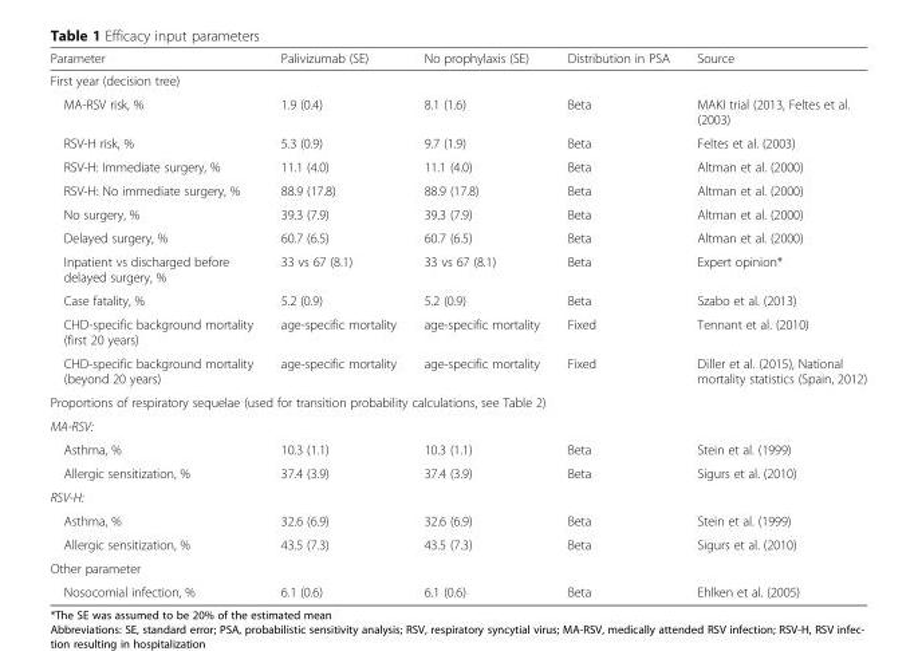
<table><thead><tr><td>Parameter</td><td>Palivizumab (SE)</td><td>No prophylaxis (SE)</td><td>Distribution in PSA</td><td>Source</td></tr></thead><tbody><tr><td colspan="5">First year (decision tree)</td></tr><tr><td>MA-RSV risk, %</td><td>1.9 (0.4)</td><td>8.1 (1.6)</td><td>Beta</td><td>MAKI trial (2013, Feltes et al. (2003)</td></tr><tr><td>RSV-H risk, %</td><td>5.3 (0.9)</td><td>9.7 (1.9)</td><td>Beta</td><td>Feltes et al. (2003)</td></tr><tr><td>RSV-H: Immediate surgery, %</td><td>11.1 (4.0)</td><td>11.1 (4.0)</td><td>Beta</td><td>Altman et al. (2000)</td></tr><tr><td>RSV-H: No immediate surgery, %</td><td>88.9 (17.8)</td><td>88.9 (17.8)</td><td>Beta</td><td>Altman et al. (2000)</td></tr><tr><td>No surgery, %</td><td>39.3 (7.9)</td><td>39.3 (7.9)</td><td>Beta</td><td>Altman et al. (2000)</td></tr><tr><td>Delayed surgery, %</td><td>60.7 (6.5)</td><td>60.7 (6.5)</td><td>Beta</td><td>Altman et al. (2000)</td></tr><tr><td>Inpatient vs discharged before delayed surgery, %</td><td>33 vs 67 (8.1)</td><td>33 vs 67 (8.1)</td><td>Beta</td><td>Expert opinion*</td></tr><tr><td>Case fatality, %</td><td>5.2 (0.9)</td><td>5.2 (0.9)</td><td>Beta</td><td>Szabo et al. (2013)</td></tr><tr><td>CHD-specific background mortality (first 20 years)</td><td>age-specific mortality</td><td>age-specific mortality</td><td>Fixed</td><td>Tennant et al. (2010)</td></tr><tr><td>CHD-specific background mortality (beyond 20 years)</td><td>age-specific mortality</td><td>age-specific mortality</td><td>Fixed</td><td>Diller et al. (2015), National mortality statistics (Spain, 2012)</td></tr><tr><td colspan="5">Proportions of respiratory sequelae (used for transition probability calculations, see Table 2)</td></tr><tr><td colspan="5">MA-RSV:</td></tr><tr><td>Asthma, %</td><td>10.3 (1.1)</td><td>10.3 (1.1)</td><td>Beta</td><td>Stein et al. (1999)</td></tr><tr><td>Allergic sensitization, %</td><td>37.4 (3.9)</td><td>37.4 (3.9)</td><td>Beta</td><td>Sigurs et al. (2010)</td></tr><tr><td colspan="5">RSV-H:</td></tr><tr><td>Asthma, %</td><td>32.6 (6.9)</td><td>32.6 (6.9)</td><td>Beta</td><td>Stein et al. (1999)</td></tr><tr><td>Allergic sensitization, %</td><td>43.5 (7.3)</td><td>43.5 (7.3)</td><td>Beta</td><td>Sigurs et al. (2010)</td></tr><tr><td colspan="5">Other parameter</td></tr><tr><td>Nosocomial infection, %</td><td>6.1 (0.6)</td><td>6.1 (0.6)</td><td>Beta</td><td>Ehlken et al. (2005)</td></tr></tbody></table>